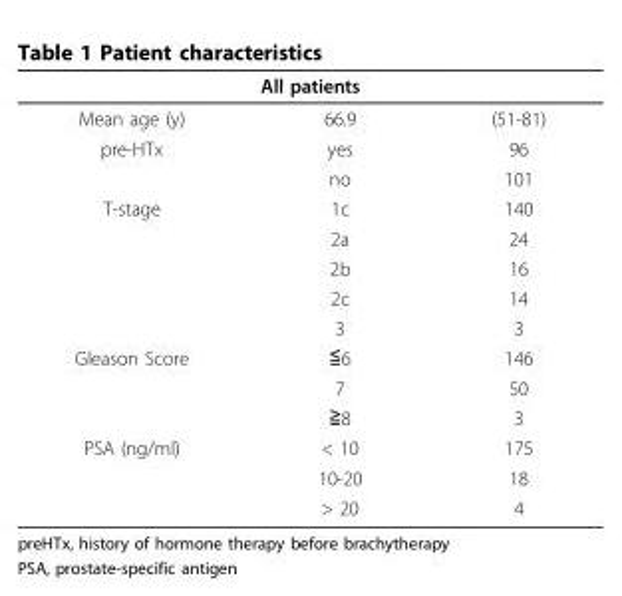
<table><thead><tr><td colspan="3">All patients</td></tr><tr><td>Mean age (y)</td><td>66.9</td><td>(51-81)</td></tr></thead><tbody><tr><td rowspan="2">pre-HTx</td><td>yes</td><td>96</td></tr><tr><td>no</td><td>101</td></tr><tr><td rowspan="5">T-stage</td><td>1c</td><td>140</td></tr><tr><td>2a</td><td>24</td></tr><tr><td>2b</td><td>16</td></tr><tr><td>2c</td><td>14</td></tr><tr><td>3</td><td>3</td></tr><tr><td rowspan="3">Gleason Score</td><td>≦6</td><td>146</td></tr><tr><td>7</td><td>50</td></tr><tr><td>≧8</td><td>3</td></tr><tr><td rowspan="3">PSA (ng/ml)</td><td>&lt; 10</td><td>175</td></tr><tr><td>10-20</td><td>18</td></tr><tr><td>&gt; 20</td><td>4</td></tr></tbody></table>